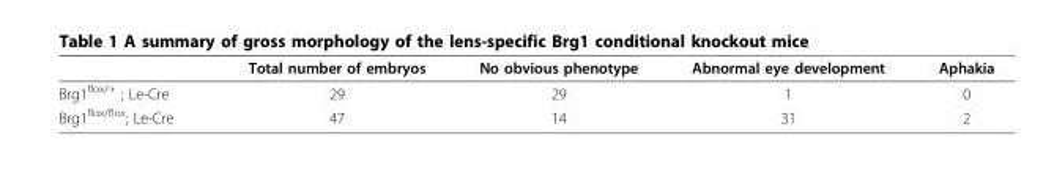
<table><thead><tr><td></td><td>Total number of embryos</td><td>No obvious phenotype</td><td>Abnormal eye development</td><td>Aphakia</td></tr></thead><tbody><tr><td>Brg1<sup>flox/+</sup> ; Le-Cre</td><td>29</td><td>29</td><td>1</td><td>0</td></tr><tr><td>Brg1<sup>flox/flox</sup>; Le-Cre</td><td>47</td><td>14</td><td>31</td><td>2</td></tr></tbody></table>